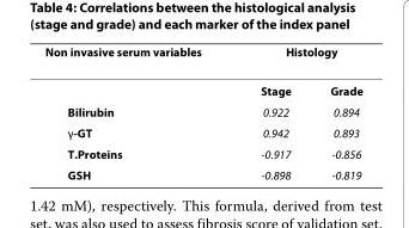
<table><thead><tr><td rowspan="2">Non invasive serum variables</td><td colspan="2">Histology</td></tr><tr><td>Stage</td><td>Grade</td></tr></thead><tbody><tr><td>Bilirubin</td><td>0.922</td><td>0.894</td></tr><tr><td>γ-GT</td><td>0.942</td><td>0.893</td></tr><tr><td>T.Proteins</td><td>-0.917</td><td>-0.856</td></tr><tr><td>GSH</td><td>-0.898</td><td>-0.819</td></tr></tbody></table>